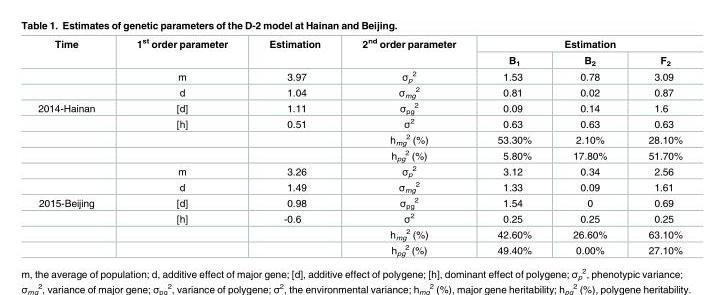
<table><thead><tr><td rowspan="2">Time</td><td rowspan="2">1<sup>st</sup> order parameter</td><td rowspan="2">Estimation</td><td rowspan="2">2<sup>nd</sup> order parameter</td><td colspan="3">Estimation</td></tr><tr><td>B<sub>1</sub></td><td>B<sub>2</sub></td><td>F<sub>2</sub></td></tr></thead><tbody><tr><td></td><td>m</td><td>3.97</td><td>σ<sub>p</sub> <sup>2</sup></td><td>1.53</td><td>0.78</td><td>3.09</td></tr><tr><td></td><td>d</td><td>1.04</td><td>σ<sub>mg</sub> <sup>2</sup></td><td>0.81</td><td>0.02</td><td>0.87</td></tr><tr><td rowspan="6">2014-Hainan</td><td>[d]</td><td>1.11</td><td>σ<sub>pg</sub> <sup>2</sup></td><td>0.09</td><td>0.14</td><td>1.6</td></tr><tr><td>[h]</td><td>0.51</td><td>σ<sup>2</sup></td><td>0.63</td><td>0.63</td><td>0.63</td></tr><tr><td></td><td></td><td>h<sub>mg</sub> <sup>2</sup> (%)</td><td>53.30%</td><td>2.10%</td><td>28.10%</td></tr><tr><td></td><td></td><td>h<sub>pg</sub> <sup>2</sup> (%)</td><td>5.80%</td><td>17.80%</td><td>51.70%</td></tr><tr><td>m</td><td>3.26</td><td>σ<sub>p</sub> <sup>2</sup></td><td>3.12</td><td>0.34</td><td>2.56</td></tr><tr><td>d</td><td>1.49</td><td>σ<sub>mg</sub> <sup>2</sup></td><td>1.33</td><td>0.09</td><td>1.61</td></tr><tr><td rowspan="4">2015-Beijing</td><td>[d]</td><td>0.98</td><td>σ<sub>pg</sub> <sup>2</sup></td><td>1.54</td><td>0</td><td>0.69</td></tr><tr><td>[h]</td><td>-0.6</td><td>σ<sup>2</sup></td><td>0.25</td><td>0.25</td><td>0.25</td></tr><tr><td></td><td></td><td>h<sub>mg</sub> <sup>2</sup> (%)</td><td>42.60%</td><td>26.60%</td><td>63.10%</td></tr><tr><td></td><td></td><td>h<sub>pg</sub> <sup>2</sup> (%)</td><td>49.40%</td><td>0.00%</td><td>27.10%</td></tr></tbody></table>